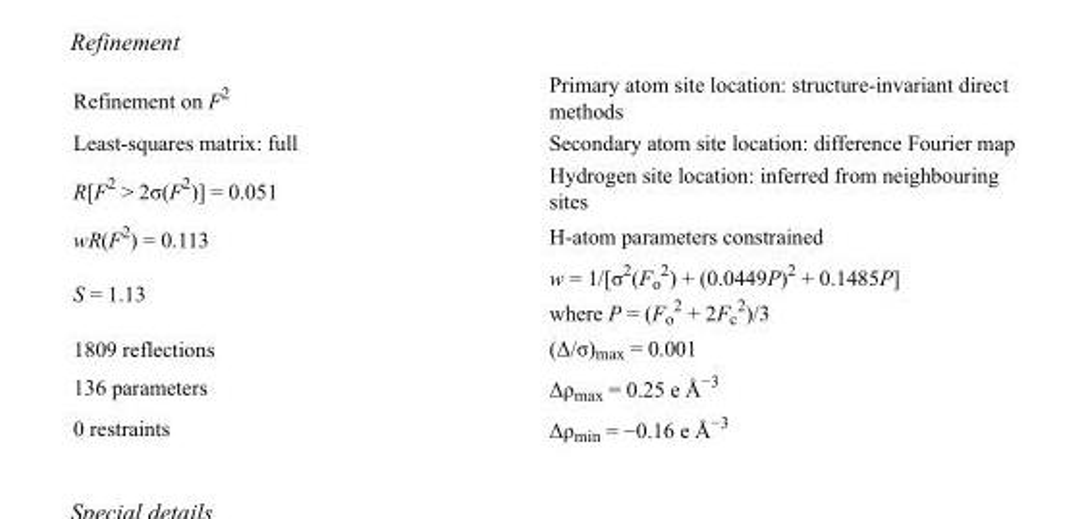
<table><tbody><tr><td>Refinement on F<sup>2</sup></td><td>Primary atom site location: structure-invariant direct methods</td></tr><tr><td>Least-squares matrix: full</td><td>Secondary atom site location: difference Fourier map</td></tr><tr><td>R[F<sup>2</sup> &gt; 2σ(F<sup>2</sup>)] = 0.051</td><td>Hydrogen site location: inferred from neighbouring sites</td></tr><tr><td>wR(F<sup>2</sup>) = 0.113</td><td>H-atom parameters constrained</td></tr><tr><td>S = 1.13</td><td>w = 1/[σ<sup>2</sup>(F<sub>o</sub> <sup>2</sup>) + (0.0449P)<sup>2</sup> + 0.1485P] where P = (F<sub>o</sub> <sup>2</sup> + 2F<sub>c</sub> <sup>2</sup>)/3</td></tr><tr><td>1809 reflections</td><td>(Δ/σ)<sub>max</sub> = 0.001</td></tr><tr><td>136 parameters</td><td>Δρ<sub>max</sub> = 0.25 e Å<sup>−3</sup></td></tr><tr><td>0 restraints</td><td>Δρ<sub>min</sub> = −0.16 e Å<sup>−3</sup></td></tr></tbody></table>